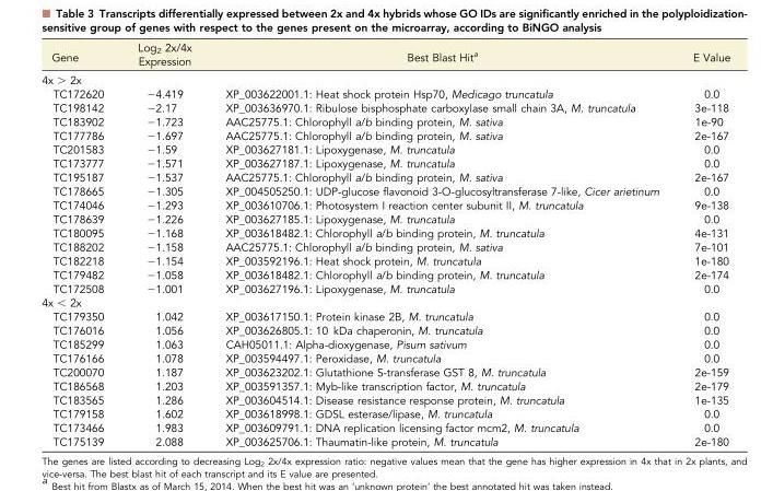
<table><thead><tr><td>Gene</td><td>Log<sub>2</sub> 2x/4x Expression</td><td>Best Blast Hita</td><td>E Value</td></tr></thead><tbody><tr><td colspan="4">4x &gt; 2x</td></tr><tr><td>TC172620</td><td>−4.419</td><td>XP_003622001.1: Heat shock protein Hsp70, Medicago truncatula</td><td>0.0</td></tr><tr><td>TC198142</td><td>−2.17</td><td>XP_003636970.1: Ribulose bisphosphate carboxylase small chain 3A, M. truncatula</td><td>3e-118</td></tr><tr><td>TC183902</td><td>−1.723</td><td>AAC25775.1: Chlorophyll a/b binding protein, M. sativa</td><td>1e-90</td></tr><tr><td>TC177786</td><td>−1.697</td><td>AAC25775.1: Chlorophyll a/b binding protein, M. sativa</td><td>2e-167</td></tr><tr><td>TC201583</td><td>−1.59</td><td>XP_003627181.1: Lipoxygenase, M. truncatula</td><td>0.0</td></tr><tr><td>TC173777</td><td>−1.571</td><td>XP_003627187.1: Lipoxygenase, M. truncatula</td><td>0.0</td></tr><tr><td>TC195187</td><td>−1.537</td><td>AAC25775.1: Chlorophyll a/b binding protein, M. sativa</td><td>2e-167</td></tr><tr><td>TC178665</td><td>−1.305</td><td>XP_004505250.1: UDP-glucose flavonoid 3-O-glucosyltransferase 7-like, Cicer arietinum</td><td>0.0</td></tr><tr><td>TC174046</td><td>−1.293</td><td>XP_003610706.1: Photosystem I reaction center subunit II, M. truncatula</td><td>9e-138</td></tr><tr><td>TC178639</td><td>−1.226</td><td>XP_003627185.1: Lipoxygenase, M. truncatula</td><td>0.0</td></tr><tr><td>TC180095</td><td>−1.168</td><td>XP_003618482.1: Chlorophyll a/b binding protein, M. truncatula</td><td>4e-131</td></tr><tr><td>TC188202</td><td>−1.158</td><td>AAC25775.1: Chlorophyll a/b binding protein, M. sativa</td><td>7e-101</td></tr><tr><td>TC182218</td><td>−1.154</td><td>XP_003592196.1: Heat shock protein, M. truncatula</td><td>1e-180</td></tr><tr><td>TC179482</td><td>−1.058</td><td>XP_003618482.1: Chlorophyll a/b binding protein, M. truncatula</td><td>2e-174</td></tr><tr><td>TC172508</td><td>−1.001</td><td>XP_003627196.1: Lipoxygenase, M. truncatula</td><td>0.0</td></tr><tr><td colspan="4">4x &lt; 2x</td></tr><tr><td>TC179350</td><td>1.042</td><td>XP_003617150.1: Protein kinase 2B, M. truncatula</td><td>0.0</td></tr><tr><td>TC176016</td><td>1.056</td><td>XP_003626805.1: 10 kDa chaperonin, M. truncatula</td><td>0.0</td></tr><tr><td>TC185299</td><td>1.063</td><td>CAH05011.1: Alpha-dioxygenase, Pisum sativum</td><td>0.0</td></tr><tr><td>TC176166</td><td>1.078</td><td>XP_003594497.1: Peroxidase, M. truncatula</td><td>0.0</td></tr><tr><td>TC200070</td><td>1.187</td><td>XP_003623202.1: Glutathione S-transferase GST 8, M. truncatula</td><td>2e-159</td></tr><tr><td>TC186568</td><td>1.203</td><td>XP_003591357.1: Myb-like transcription factor, M. truncatula</td><td>2e-179</td></tr><tr><td>TC183565</td><td>1.286</td><td>XP_003604514.1: Disease resistance response protein, M. truncatula</td><td>1e-135</td></tr><tr><td>TC179158</td><td>1.602</td><td>XP_003618998.1: GDSL esterase/lipase, M. truncatula</td><td>0.0</td></tr><tr><td>TC173466</td><td>1.983</td><td>XP_003609791.1: DNA replication licensing factor mcm2, M. truncatula</td><td>0.0</td></tr><tr><td>TC175139</td><td>2.088</td><td>XP_003625706.1: Thaumatin-like protein, M. truncatula</td><td>2e-180</td></tr></tbody></table>